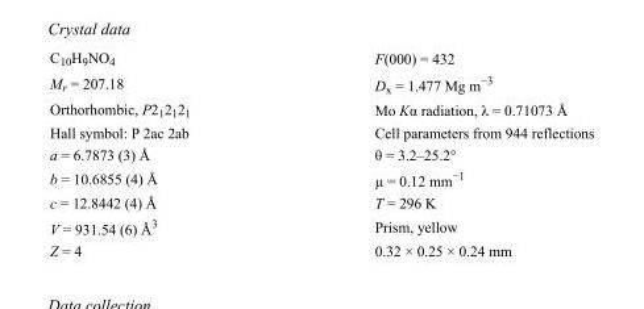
<table><tbody><tr><td>C<sub>10</sub>H<sub>9</sub>NO<sub>4</sub></td><td>F(000) = 432</td></tr><tr><td>M<sub>r</sub> = 207.18</td><td>D<sub>x</sub> = 1.477 Mg m<sup>−3</sup></td></tr><tr><td>Orthorhombic, P2<sub>1</sub>2<sub>1</sub>2<sub>1</sub></td><td>Mo Kα radiation, λ = 0.71073 Å</td></tr><tr><td>Hall symbol: P 2ac 2ab</td><td>Cell parameters from 944 reflections</td></tr><tr><td>a = 6.7873 (3) Å</td><td>θ = 3.2–25.2°</td></tr><tr><td>b = 10.6855 (4) Å</td><td>µ = 0.12 mm<sup>−1</sup></td></tr><tr><td>c = 12.8442 (4) Å</td><td>T = 296 K</td></tr><tr><td>V = 931.54 (6) Å<sup>3</sup></td><td>Prism, yellow</td></tr><tr><td>Z = 4</td><td>0.32 × 0.25 × 0.24 mm</td></tr></tbody></table>